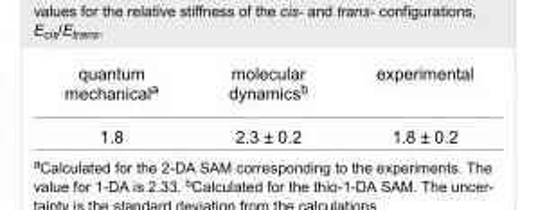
<table><tbody><tr><td>quantum mechanical<sup>a</sup></td><td>molecular dynamics<sup>b</sup></td><td>experimental</td></tr><tr><td>1.8</td><td>2.3 ± 0.2</td><td>1.8 ± 0.2</td></tr></tbody></table>